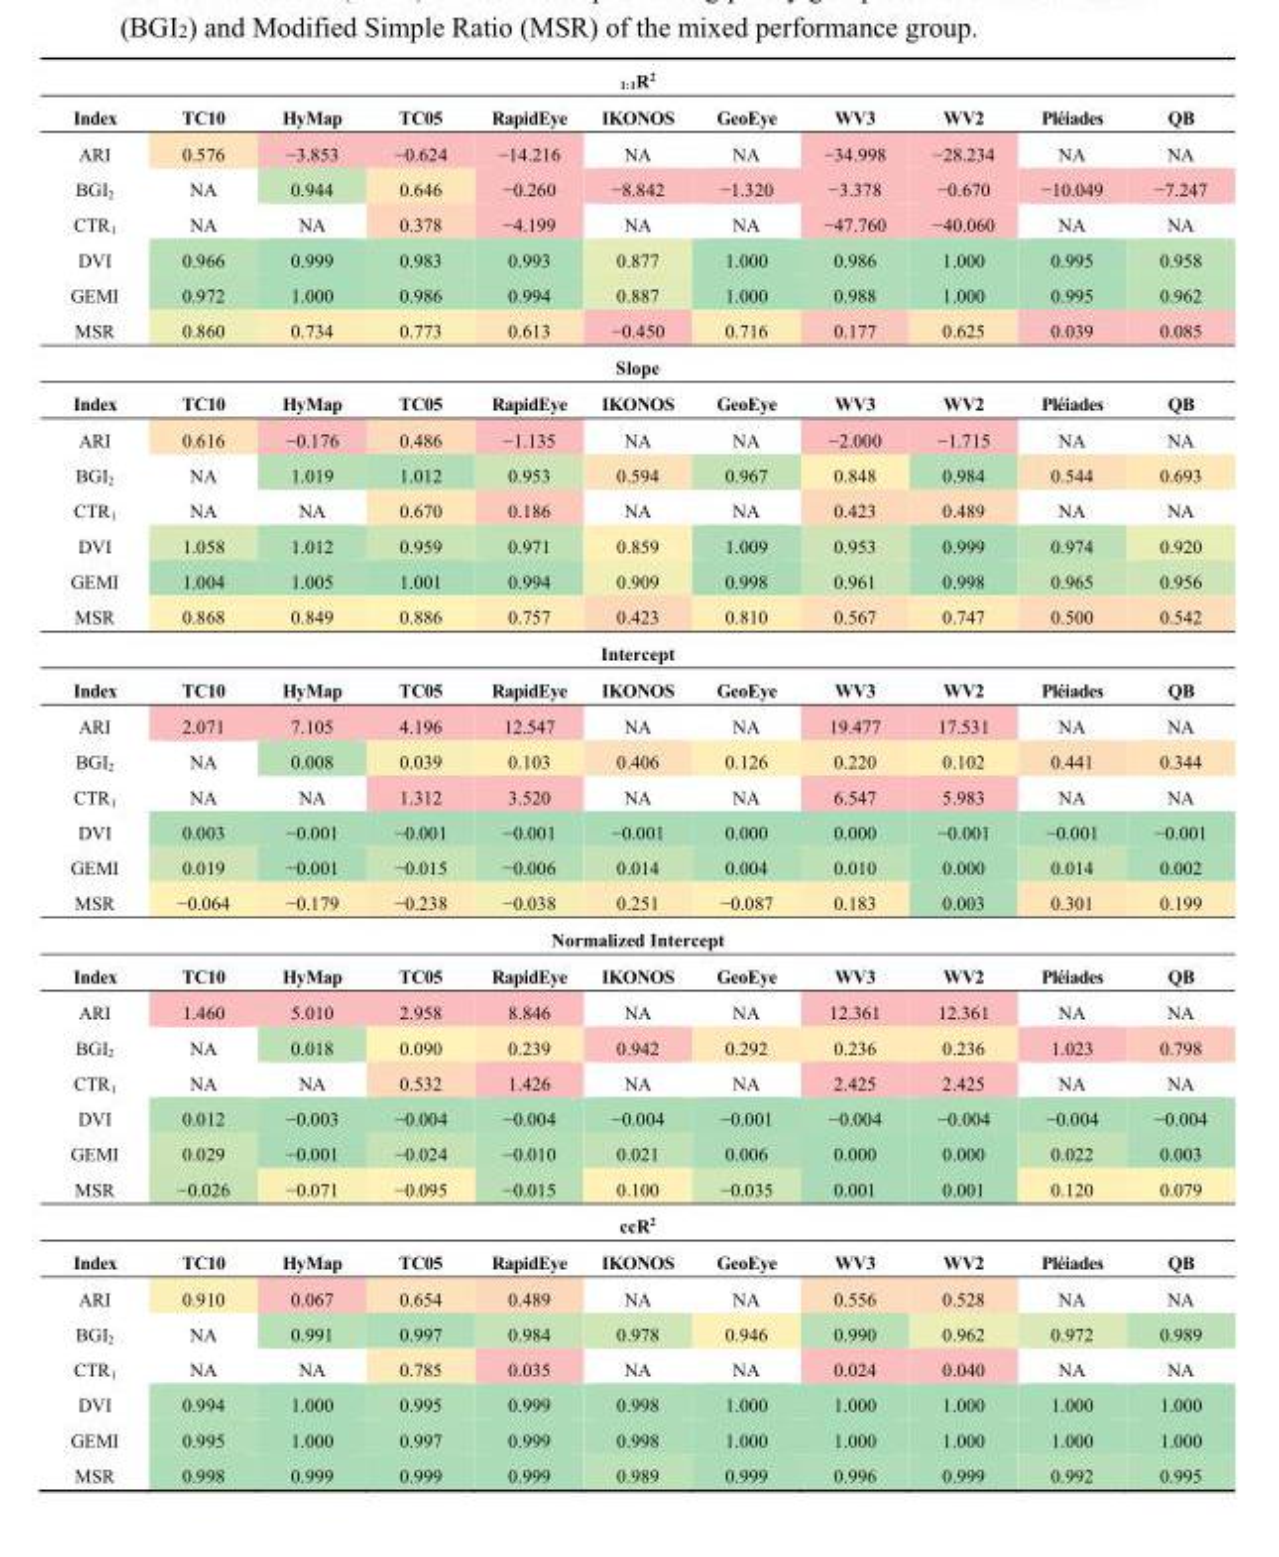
<table><tbody><tr><td colspan="11"><sub>1:1</sub>R<sup>2</sup></td></tr><tr><td>Index</td><td>TC10</td><td>HyMap</td><td>TC05</td><td>RapidEye</td><td>IKONOS</td><td>GeoEye</td><td>WV3</td><td>WV2</td><td>Pléiades</td><td>QB</td></tr><tr><td>ARI</td><td>0.576</td><td>−3.853</td><td>−0.624</td><td>−14.216</td><td>NA</td><td>NA</td><td>−34.998</td><td>−28.234</td><td>NA</td><td>NA</td></tr><tr><td>BGI<sub>2</sub></td><td>NA</td><td>0.944</td><td>0.646</td><td>−0.260</td><td>−8.842</td><td>−1.320</td><td>−3.378</td><td>−0.670</td><td>−10.049</td><td>−7.247</td></tr><tr><td>CTR<sub>1</sub></td><td>NA</td><td>NA</td><td>0.378</td><td>−4.199</td><td>NA</td><td>NA</td><td>−47.760</td><td>−40.060</td><td>NA</td><td>NA</td></tr><tr><td>DVI</td><td>0.966</td><td>0.999</td><td>0.983</td><td>0.993</td><td>0.877</td><td>1.000</td><td>0.986</td><td>1.000</td><td>0.995</td><td>0.958</td></tr><tr><td>GEMI</td><td>0.972</td><td>1.000</td><td>0.986</td><td>0.994</td><td>0.887</td><td>1.000</td><td>0.988</td><td>1.000</td><td>0.995</td><td>0.962</td></tr><tr><td>MSR</td><td>0.860</td><td>0.734</td><td>0.773</td><td>0.613</td><td>−0.450</td><td>0.716</td><td>0.177</td><td>0.625</td><td>0.039</td><td>0.085</td></tr><tr><td colspan="11">Slope</td></tr><tr><td>Index</td><td>TC10</td><td>HyMap</td><td>TC05</td><td>RapidEye</td><td>IKONOS</td><td>GeoEye</td><td>WV3</td><td>WV2</td><td>Pléiades</td><td>QB</td></tr><tr><td>ARI</td><td>0.616</td><td>−0.176</td><td>0.486</td><td>−1.135</td><td>NA</td><td>NA</td><td>−2.000</td><td>−1.715</td><td>NA</td><td>NA</td></tr><tr><td>BGI<sub>2</sub></td><td>NA</td><td>1.019</td><td>1.012</td><td>0.953</td><td>0.594</td><td>0.967</td><td>0.848</td><td>0.984</td><td>0.544</td><td>0.693</td></tr><tr><td>CTR<sub>1</sub></td><td>NA</td><td>NA</td><td>0.670</td><td>0.186</td><td>NA</td><td>NA</td><td>0.423</td><td>0.489</td><td>NA</td><td>NA</td></tr><tr><td>DVI</td><td>1.058</td><td>1.012</td><td>0.959</td><td>0.971</td><td>0.859</td><td>1.009</td><td>0.953</td><td>0.999</td><td>0.974</td><td>0.920</td></tr><tr><td>GEMI</td><td>1.004</td><td>1.005</td><td>1.001</td><td>0.994</td><td>0.909</td><td>0.998</td><td>0.961</td><td>0.998</td><td>0.965</td><td>0.956</td></tr><tr><td>MSR</td><td>0.868</td><td>0.849</td><td>0.886</td><td>0.757</td><td>0.423</td><td>0.810</td><td>0.567</td><td>0.747</td><td>0.500</td><td>0.542</td></tr><tr><td colspan="11">Intercept</td></tr><tr><td>Index</td><td>TC10</td><td>HyMap</td><td>TC05</td><td>RapidEye</td><td>IKONOS</td><td>GeoEye</td><td>WV3</td><td>WV2</td><td>Pléiades</td><td>QB</td></tr><tr><td>ARI</td><td>2.071</td><td>7.105</td><td>4.196</td><td>12.547</td><td>NA</td><td>NA</td><td>19.477</td><td>17.531</td><td>NA</td><td>NA</td></tr><tr><td>BGI<sub>2</sub></td><td>NA</td><td>0.008</td><td>0.039</td><td>0.103</td><td>0.406</td><td>0.126</td><td>0.220</td><td>0.102</td><td>0.441</td><td>0.344</td></tr><tr><td>CTR<sub>1</sub></td><td>NA</td><td>NA</td><td>1.312</td><td>3.520</td><td>NA</td><td>NA</td><td>6.547</td><td>5.983</td><td>NA</td><td>NA</td></tr><tr><td>DVI</td><td>0.003</td><td>−0.001</td><td>−0.001</td><td>−0.001</td><td>−0.001</td><td>0.000</td><td>0.000</td><td>−0.001</td><td>−0.001</td><td>−0.001</td></tr><tr><td>GEMI</td><td>0.019</td><td>−0.001</td><td>−0.015</td><td>−0.006</td><td>0.014</td><td>0.004</td><td>0.010</td><td>0.000</td><td>0.014</td><td>0.002</td></tr><tr><td>MSR</td><td>−0.064</td><td>−0.179</td><td>−0.238</td><td>−0.038</td><td>0.251</td><td>−0.087</td><td>0.183</td><td>0.003</td><td>0.301</td><td>0.199</td></tr><tr><td colspan="11">Normalized Intercept</td></tr><tr><td>Index</td><td>TC10</td><td>HyMap</td><td>TC05</td><td>RapidEye</td><td>IKONOS</td><td>GeoEye</td><td>WV3</td><td>WV2</td><td>Pléiades</td><td>QB</td></tr><tr><td>ARI</td><td>1.460</td><td>5.010</td><td>2.958</td><td>8.846</td><td>NA</td><td>NA</td><td>12.361</td><td>12.361</td><td>NA</td><td>NA</td></tr><tr><td>BGI<sub>2</sub></td><td>NA</td><td>0.018</td><td>0.090</td><td>0.239</td><td>0.942</td><td>0.292</td><td>0.236</td><td>0.236</td><td>1.023</td><td>0.798</td></tr><tr><td>CTR<sub>1</sub></td><td>NA</td><td>NA</td><td>0.532</td><td>1.426</td><td>NA</td><td>NA</td><td>2.425</td><td>2.425</td><td>NA</td><td>NA</td></tr><tr><td>DVI</td><td>0.012</td><td>−0.003</td><td>−0.004</td><td>−0.004</td><td>−0.004</td><td>−0.001</td><td>−0.004</td><td>−0.004</td><td>−0.004</td><td>−0.004</td></tr><tr><td>GEMI</td><td>0.029</td><td>−0.001</td><td>−0.024</td><td>−0.010</td><td>0.021</td><td>0.006</td><td>0.000</td><td>0.000</td><td>0.022</td><td>0.003</td></tr><tr><td>MSR</td><td>−0.026</td><td>−0.071</td><td>−0.095</td><td>−0.015</td><td>0.100</td><td>−0.035</td><td>0.001</td><td>0.001</td><td>0.120</td><td>0.079</td></tr><tr><td colspan="11">ccR<sup>2</sup></td></tr><tr><td>Index</td><td>TC10</td><td>HyMap</td><td>TC05</td><td>RapidEye</td><td>IKONOS</td><td>GeoEye</td><td>WV3</td><td>WV2</td><td>Pléiades</td><td>QB</td></tr><tr><td>ARI</td><td>0.910</td><td>0.067</td><td>0.654</td><td>0.489</td><td>NA</td><td>NA</td><td>0.556</td><td>0.528</td><td>NA</td><td>NA</td></tr><tr><td>BGI<sub>2</sub></td><td>NA</td><td>0.991</td><td>0.997</td><td>0.984</td><td>0.978</td><td>0.946</td><td>0.990</td><td>0.962</td><td>0.972</td><td>0.989</td></tr><tr><td>CTR<sub>1</sub></td><td>NA</td><td>NA</td><td>0.785</td><td>0.035</td><td>NA</td><td>NA</td><td>0.024</td><td>0.040</td><td>NA</td><td>NA</td></tr><tr><td>DVI</td><td>0.994</td><td>1.000</td><td>0.995</td><td>0.999</td><td>0.998</td><td>1.000</td><td>1.000</td><td>1.000</td><td>1.000</td><td>1.000</td></tr><tr><td>GEMI</td><td>0.995</td><td>1.000</td><td>0.997</td><td>0.999</td><td>0.998</td><td>1.000</td><td>1.000</td><td>1.000</td><td>1.000</td><td>1.000</td></tr><tr><td>MSR</td><td>0.998</td><td>0.999</td><td>0.999</td><td>0.999</td><td>0.989</td><td>0.999</td><td>0.996</td><td>0.999</td><td>0.992</td><td>0.995</td></tr></tbody></table>